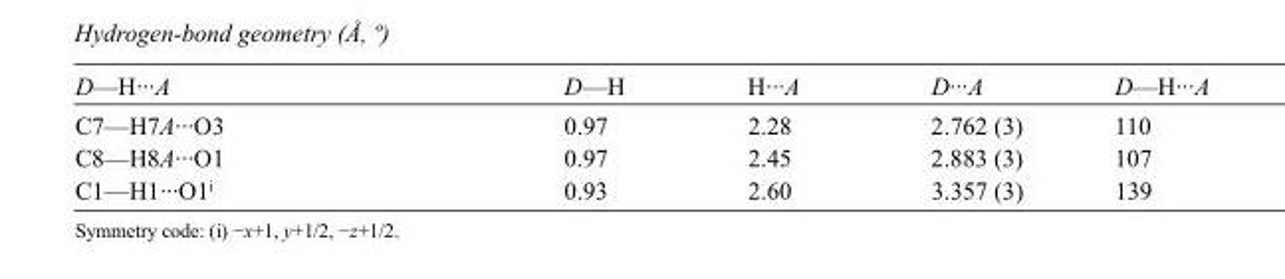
<table><tbody><tr><td>D—H···A</td><td>D—H</td><td>H···A</td><td>D···A</td><td>D—H···A</td></tr><tr><td>C7—H7A···O3</td><td>0.97</td><td>2.28</td><td>2.762 (3)</td><td>110</td></tr><tr><td>C8—H8A···O1</td><td>0.97</td><td>2.45</td><td>2.883 (3)</td><td>107</td></tr><tr><td>C1—H1···O1<sup>i</sup></td><td>0.93</td><td>2.60</td><td>3.357 (3)</td><td>139</td></tr></tbody></table>